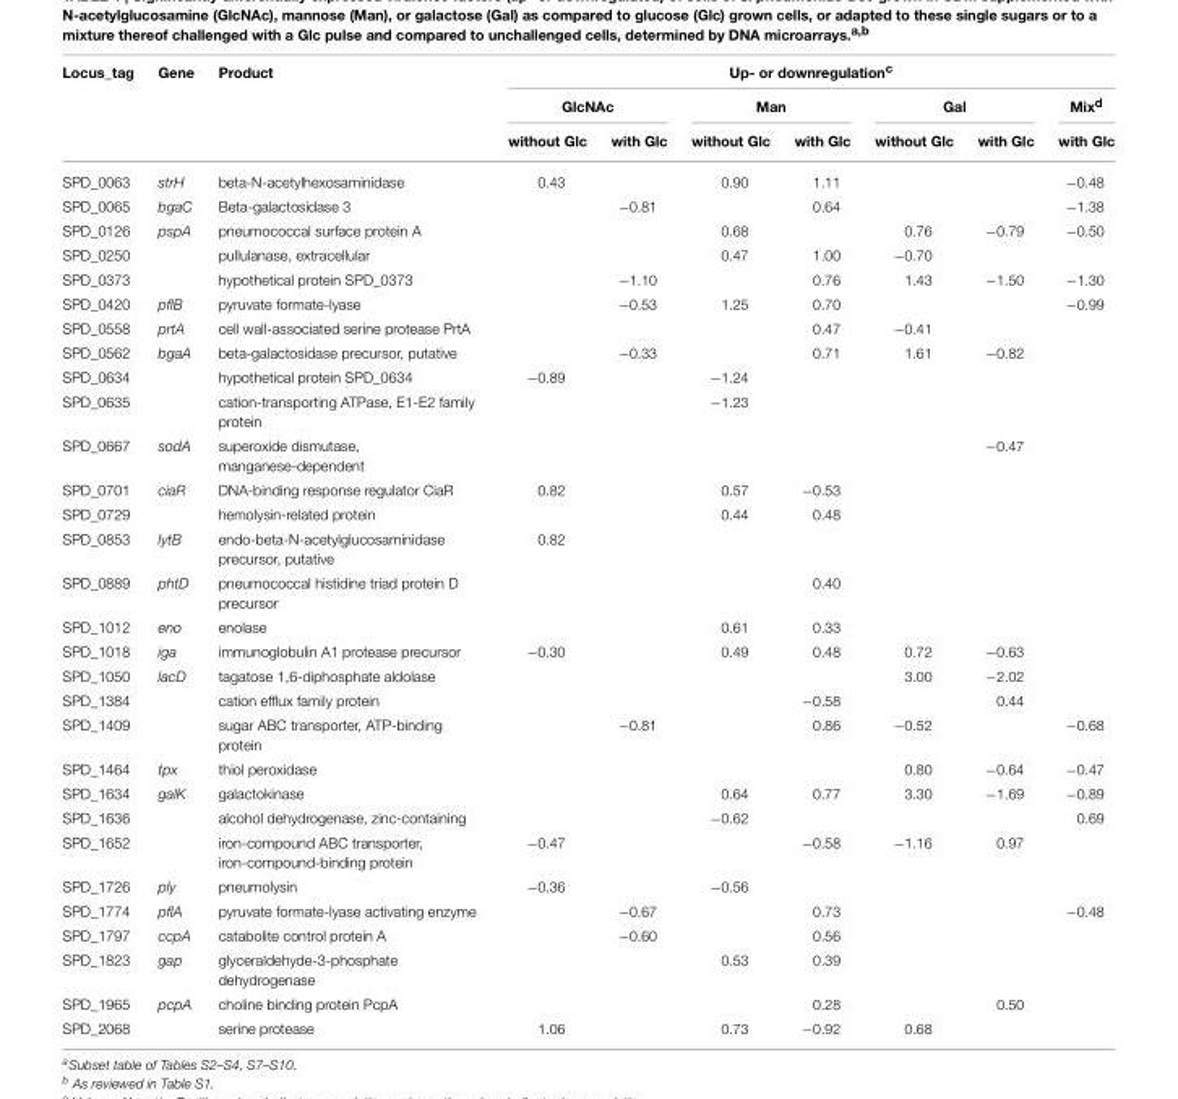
<table><thead><tr><td rowspan="3">Locus_tag</td><td rowspan="3">Gene</td><td rowspan="3">Product</td><td colspan="7">Up- or downregulation<sup>c</sup></td></tr><tr><td colspan="2">GlcNAc</td><td colspan="2">Man</td><td colspan="2">Gal</td><td rowspan="2">Mix<sup>d</sup> with Glc</td></tr><tr><td>without Glc</td><td>with Glc</td><td>without Glc</td><td>with Glc</td><td>without Glc</td><td>with Glc</td></tr></thead><tbody><tr><td>SPD_0063</td><td>strH</td><td>beta-N-acetylhexosaminidase</td><td>0.43</td><td></td><td>0.90</td><td>1.11</td><td></td><td></td><td>−0.48</td></tr><tr><td>SPD_0065</td><td>bgaC</td><td>Beta-galactosidase 3</td><td></td><td>−0.81</td><td></td><td>0.64</td><td></td><td></td><td>−1.38</td></tr><tr><td>SPD_0126</td><td>pspA</td><td>pneumococcal surface protein A</td><td></td><td></td><td>0.68</td><td></td><td>0.76</td><td>−0.79</td><td>−0.50</td></tr><tr><td>SPD_0250</td><td></td><td>pullulanase, extracellular</td><td></td><td></td><td>0.47</td><td>1.00</td><td>−0.70</td><td></td><td></td></tr><tr><td>SPD_0373</td><td></td><td>hypothetical protein SPD_0373</td><td></td><td>−1.10</td><td></td><td>0.76</td><td>1.43</td><td>−1.50</td><td>−1.30</td></tr><tr><td>SPD_0420</td><td>pflB</td><td>pyruvate formate-lyase</td><td></td><td>−0.53</td><td>1.25</td><td>0.70</td><td></td><td></td><td>−0.99</td></tr><tr><td>SPD_0558</td><td>prtA</td><td>cell wall-associated serine protease PrtA</td><td></td><td></td><td></td><td>0.47</td><td>−0.41</td><td></td><td></td></tr><tr><td>SPD_0562</td><td>bgaA</td><td>beta-galactosidase precursor, putative</td><td></td><td>−0.33</td><td></td><td>0.71</td><td>1.61</td><td>−0.82</td><td></td></tr><tr><td>SPD_0634</td><td></td><td>hypothetical protein SPD_0634</td><td>−0.89</td><td></td><td>−1.24</td><td></td><td></td><td></td><td></td></tr><tr><td>SPD_0635</td><td></td><td>cation-transporting ATPase, E1-E2 family protein</td><td></td><td></td><td>−1.23</td><td></td><td></td><td></td><td></td></tr><tr><td>SPD_0667</td><td>sodA</td><td>superoxide dismutase, manganese-dependent</td><td></td><td></td><td></td><td></td><td></td><td>−0.47</td><td></td></tr><tr><td>SPD_0701</td><td>ciaR</td><td>DNA-binding response regulator CiaR</td><td>0.82</td><td></td><td>0.57</td><td>−0.53</td><td></td><td></td><td></td></tr><tr><td>SPD_0729</td><td></td><td>hemolysin-related protein</td><td></td><td></td><td>0.44</td><td>0.48</td><td></td><td></td><td></td></tr><tr><td>SPD_0853</td><td>lytB</td><td>endo-beta-N-acetylglucosaminidase precursor, putative</td><td>0.82</td><td></td><td></td><td></td><td></td><td></td><td></td></tr><tr><td>SPD_0889</td><td>phtD</td><td>pneumococcal histidine triad protein D precursor</td><td></td><td></td><td></td><td>0.40</td><td></td><td></td><td></td></tr><tr><td>SPD_1012</td><td>eno</td><td>enolase</td><td></td><td></td><td>0.61</td><td>0.33</td><td></td><td></td><td></td></tr><tr><td>SPD_1018</td><td>iga</td><td>immunoglobulin A1 protease precursor</td><td>−0.30</td><td></td><td>0.49</td><td>0.48</td><td>0.72</td><td>−0.63</td><td></td></tr><tr><td>SPD_1050</td><td>lacD</td><td>tagatose 1,6-diphosphate aldolase</td><td></td><td></td><td></td><td></td><td>3.00</td><td>−2.02</td><td></td></tr><tr><td>SPD_1384</td><td></td><td>cation efflux family protein</td><td></td><td></td><td></td><td>−0.58</td><td></td><td>0.44</td><td></td></tr><tr><td>SPD_1409</td><td></td><td>sugar ABC transporter, ATP-binding protein</td><td></td><td>−0.81</td><td></td><td>0.86</td><td>−0.52</td><td></td><td>−0.68</td></tr><tr><td>SPD_1464</td><td>tpx</td><td>thiol peroxidase</td><td></td><td></td><td></td><td></td><td>0.80</td><td>−0.64</td><td>−0.47</td></tr><tr><td>SPD_1634</td><td>galK</td><td>galactokinase</td><td></td><td></td><td>0.64</td><td>0.77</td><td>3.30</td><td>−1.69</td><td>−0.89</td></tr><tr><td>SPD_1636</td><td></td><td>alcohol dehydrogenase, zinc-containing</td><td></td><td></td><td>−0.62</td><td></td><td></td><td></td><td>0.69</td></tr><tr><td>SPD_1652</td><td></td><td>iron-compound ABC transporter, iron-compound-binding protein</td><td>−0.47</td><td></td><td></td><td>−0.58</td><td>−1.16</td><td>0.97</td><td></td></tr><tr><td>SPD_1726</td><td>ply</td><td>pneumolysin</td><td>−0.36</td><td></td><td>−0.56</td><td></td><td></td><td></td><td></td></tr><tr><td>SPD_1774</td><td>pflA</td><td>pyruvate formate-lyase activating enzyme</td><td></td><td>−0.67</td><td></td><td>0.73</td><td></td><td></td><td>−0.48</td></tr><tr><td>SPD_1797</td><td>ccpA</td><td>catabolite control protein A</td><td></td><td>−0.60</td><td></td><td>0.56</td><td></td><td></td><td></td></tr><tr><td>SPD_1823</td><td>gap</td><td>glyceraldehyde-3-phosphate dehydrogenase</td><td></td><td></td><td>0.53</td><td>0.39</td><td></td><td></td><td></td></tr><tr><td>SPD_1965</td><td>pcpA</td><td>choline binding protein PcpA</td><td></td><td></td><td></td><td>0.28</td><td></td><td>0.50</td><td></td></tr><tr><td>SPD_2068</td><td></td><td>serine protease</td><td>1.06</td><td></td><td>0.73</td><td>−0.92</td><td>0.68</td><td></td><td></td></tr></tbody></table>